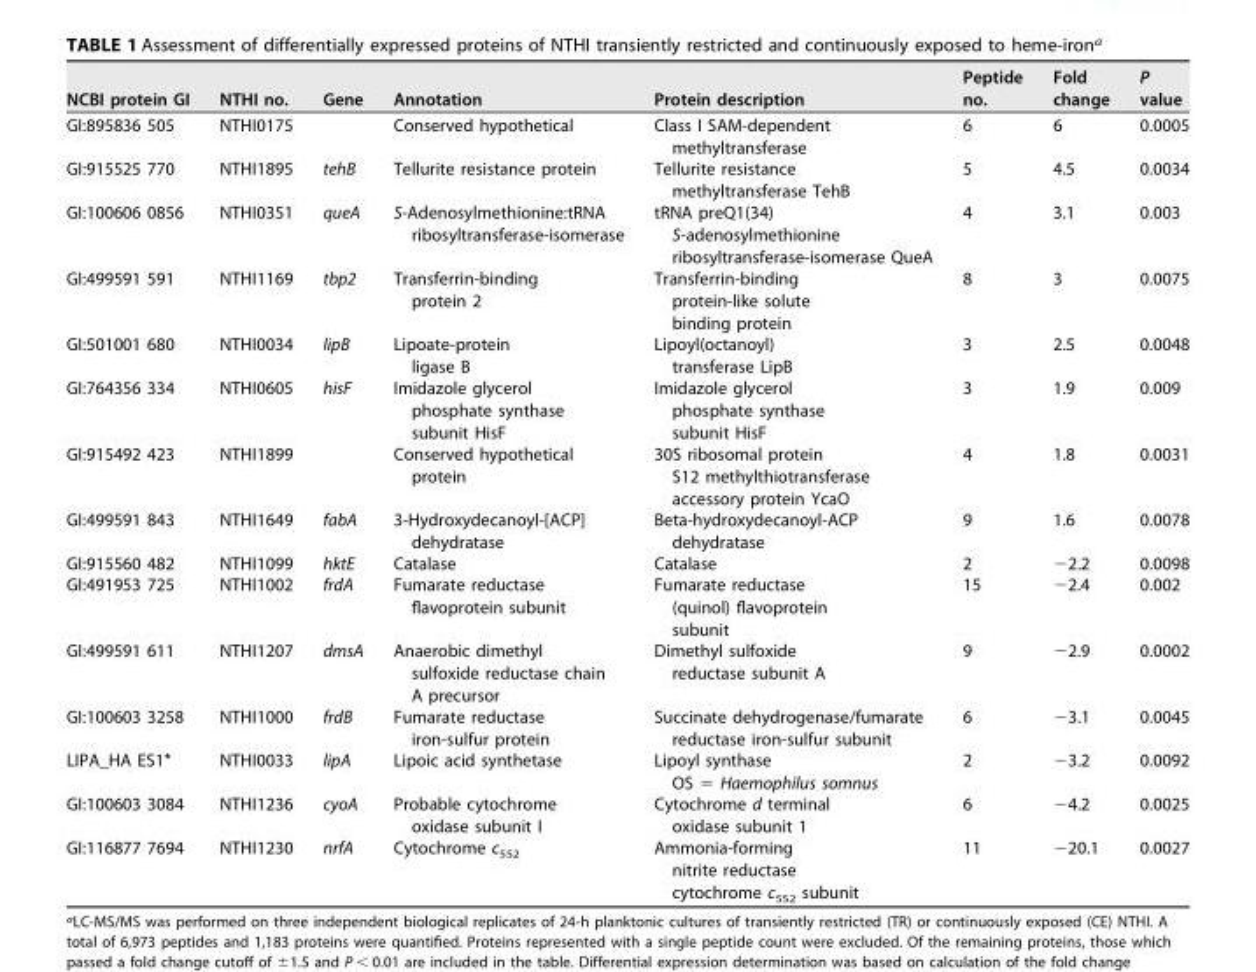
<table><thead><tr><td>NCBI protein GI</td><td>NTHI no.</td><td>Gene</td><td>Annotation</td><td>Protein description</td><td>Peptide no.</td><td>Fold change</td><td>P value</td></tr></thead><tbody><tr><td>GI:895836 505</td><td>NTHI0175</td><td></td><td>Conserved hypothetical</td><td>Class I SAM-dependent methyltransferase</td><td>6</td><td>6</td><td>0.0005</td></tr><tr><td>GI:915525 770</td><td>NTHI1895</td><td>tehB</td><td>Tellurite resistance protein</td><td>Tellurite resistance methyltransferase TehB</td><td>5</td><td>4.5</td><td>0.0034</td></tr><tr><td>GI:100606 0856</td><td>NTHI0351</td><td>queA</td><td>S-Adenosylmethionine:tRNA ribosyltransferase-isomerase</td><td>tRNA preQ1(34) S-adenosylmethionine ribosyltransferase-isomerase QueA</td><td>4</td><td>3.1</td><td>0.003</td></tr><tr><td>GI:499591 591</td><td>NTHI1169</td><td>tbp2</td><td>Transferrin-binding protein 2</td><td>Transferrin-binding protein-like solute binding protein</td><td>8</td><td>3</td><td>0.0075</td></tr><tr><td>GI:501001 680</td><td>NTHI0034</td><td>lipB</td><td>Lipoate-protein ligase B</td><td>Lipoyl(octanoyl) transferase LipB</td><td>3</td><td>2.5</td><td>0.0048</td></tr><tr><td>GI:764356 334</td><td>NTHI0605</td><td>hisF</td><td>Imidazole glycerol phosphate synthase subunit HisF</td><td>Imidazole glycerol phosphate synthase subunit HisF</td><td>3</td><td>1.9</td><td>0.009</td></tr><tr><td>GI:915492 423</td><td>NTHI1899</td><td></td><td>Conserved hypothetical protein</td><td>30S ribosomal protein S12 methylthiotransferase accessory protein YcaO</td><td>4</td><td>1.8</td><td>0.0031</td></tr><tr><td>GI:499591 843</td><td>NTHI1649</td><td>fabA</td><td>3-Hydroxydecanoyl-[ACP] dehydratase</td><td>Beta-hydroxydecanoyl-ACP dehydratase</td><td>9</td><td>1.6</td><td>0.0078</td></tr><tr><td>GI:915560 482</td><td>NTHI1099</td><td>hktE</td><td>Catalase</td><td>Catalase</td><td>2</td><td>−2.2</td><td>0.0098</td></tr><tr><td>GI:491953 725</td><td>NTHI1002</td><td>frdA</td><td>Fumarate reductase flavoprotein subunit</td><td>Fumarate reductase (quinol) flavoprotein subunit</td><td>15</td><td>−2.4</td><td>0.002</td></tr><tr><td>GI:499591 611</td><td>NTHI1207</td><td>dmsA</td><td>Anaerobic dimethyl sulfoxide reductase chain A precursor</td><td>Dimethyl sulfoxide reductase subunit A</td><td>9</td><td>−2.9</td><td>0.0002</td></tr><tr><td>GI:100603 3258</td><td>NTHI1000</td><td>frdB</td><td>Fumarate reductase iron-sulfur protein</td><td>Succinate dehydrogenase/fumarate reductase iron-sulfur subunit</td><td>6</td><td>−3.1</td><td>0.0045</td></tr><tr><td>LIPA_HA ES1*</td><td>NTHI0033</td><td>lipA</td><td>Lipoic acid synthetase</td><td>Lipoyl synthase OS = Haemophilus somnus</td><td>2</td><td>−3.2</td><td>0.0092</td></tr><tr><td>GI:100603 3084</td><td>NTHI1236</td><td>cyoA</td><td>Probable cytochrome oxidase subunit I</td><td>Cytochrome d terminal oxidase subunit 1</td><td>6</td><td>−4.2</td><td>0.0025</td></tr><tr><td>GI:116877 7694</td><td>NTHI1230</td><td>nrfA</td><td>Cytochrome c<sub>552</sub></td><td>Ammonia-forming nitrite reductase cytochrome c<sub>552</sub> subunit</td><td>11</td><td>−20.1</td><td>0.0027</td></tr></tbody></table>